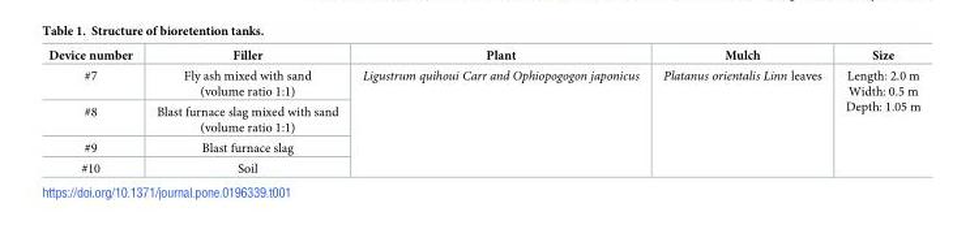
<table><thead><tr><td>Device number</td><td>Filler</td><td>Plant</td><td>Mulch</td><td>Size</td></tr></thead><tbody><tr><td>#7</td><td>Fly ash mixed with sand (volume ratio 1:1)</td><td rowspan="4">Ligustrum quihoui Carr and Ophiopogogon japonicus</td><td rowspan="4">Platanus orientalis Linn leaves</td><td rowspan="4">Length: 2.0 m Width: 0.5 m Depth: 1.05 m</td></tr><tr><td>#8</td><td>Blast furnace slag mixed with sand (volume ratio 1:1)</td></tr><tr><td>#9</td><td>Blast furnace slag</td></tr><tr><td>#10</td><td>Soil</td></tr></tbody></table>